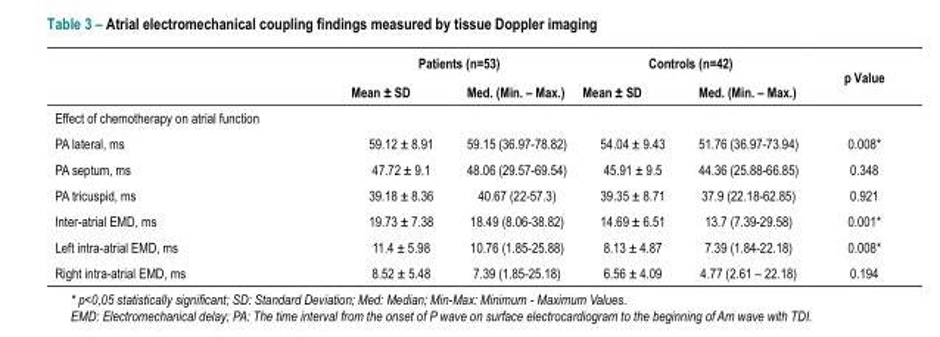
<table><thead><tr><td rowspan="2"></td><td colspan="2">Patients (n=53)</td><td colspan="2">Controls (n=42)</td><td rowspan="2">p Value</td></tr><tr><td>Mean ± SD</td><td>Med. (Min. – Max.)</td><td>Mean ± SD</td><td>Med. (Min. – Max.)</td></tr></thead><tbody><tr><td colspan="6">Effect of chemotherapy on atrial function</td></tr><tr><td>PA lateral, ms</td><td>59.12 ± 8.91</td><td>59.15 (36.97-78.82)</td><td>54.04 ± 9.43</td><td>51.76 (36.97-73.94)</td><td>0.008*</td></tr><tr><td>PA septum, ms</td><td>47.72 ± 9.1</td><td>48.06 (29.57-69.54)</td><td>45.91 ± 9.5</td><td>44.36 (25.88-66.85)</td><td>0.348</td></tr><tr><td>PA tricuspid, ms</td><td>39.18 ± 8.36</td><td>40.67 (22-57.3)</td><td>39.35 ± 8.71</td><td>37.9 (22.18-62.85)</td><td>0.921</td></tr><tr><td>Inter-atrial EMD, ms</td><td>19.73 ± 7.38</td><td>18.49 (8.06-38.82)</td><td>14.69 ± 6.51</td><td>13.7 (7.39-29.58)</td><td>0.001*</td></tr><tr><td>Left intra-atrial EMD, ms</td><td>11.4 ± 5.98</td><td>10.76 (1.85-25.88)</td><td>8.13 ± 4.87</td><td>7.39 (1.84-22.18)</td><td>0.008*</td></tr><tr><td>Right intra-atrial EMD, ms</td><td>8.52 ± 5.48</td><td>7.39 (1.85-25.18)</td><td>6.56 ± 4.09</td><td>4.77 (2.61 – 22.18)</td><td>0.194</td></tr></tbody></table>